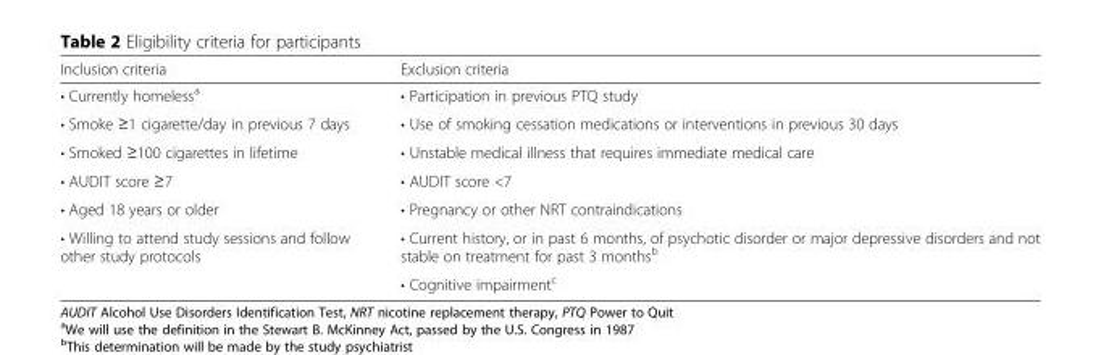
<table><thead><tr><td>Inclusion criteria</td><td>Exclusion criteria</td></tr></thead><tbody><tr><td>• Currently homeless<sup>a</sup></td><td>• Participation in previous PTQ study</td></tr><tr><td>• Smoke ≥1 cigarette/day in previous 7 days</td><td>• Use of smoking cessation medications or interventions in previous 30 days</td></tr><tr><td>• Smoked ≥100 cigarettes in lifetime</td><td>• Unstable medical illness that requires immediate medical care</td></tr><tr><td>• AUDIT score ≥7</td><td>• AUDIT score &lt;7</td></tr><tr><td>• Aged 18 years or older</td><td>• Pregnancy or other NRT contraindications</td></tr><tr><td rowspan="2">• Willing to attend study sessions and follow other study protocols</td><td>• Current history, or in past 6 months, of psychotic disorder or major depressive disorders and not stable on treatment for past 3 months<sup>b</sup></td></tr><tr><td>• Cognitive impairment<sup>c</sup></td></tr></tbody></table>